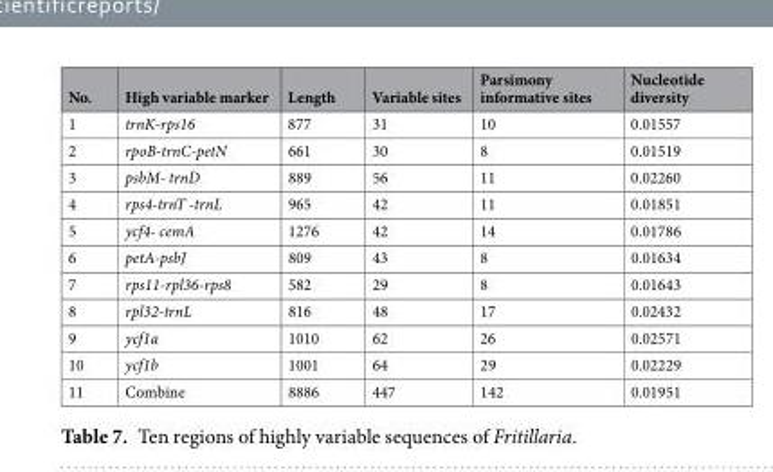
<table><thead><tr><td>No.</td><td>High variable marker</td><td>Length</td><td>Variable sites</td><td>Parsimony informative sites</td><td>Nucleotide diversity</td></tr></thead><tbody><tr><td>1</td><td>trnK-rps16</td><td>877</td><td>31</td><td>10</td><td>0.01557</td></tr><tr><td>2</td><td>rpoB-trnC-petN</td><td>661</td><td>30</td><td>8</td><td>0.01519</td></tr><tr><td>3</td><td>psbM- trnD</td><td>889</td><td>56</td><td>11</td><td>0.02260</td></tr><tr><td>4</td><td>rps4-trnT -trnL</td><td>965</td><td>42</td><td>11</td><td>0.01851</td></tr><tr><td>5</td><td>ycf4- cemA</td><td>1276</td><td>42</td><td>14</td><td>0.01786</td></tr><tr><td>6</td><td>petA-psbJ</td><td>809</td><td>43</td><td>8</td><td>0.01634</td></tr><tr><td>7</td><td>rps11-rpl36-rps8</td><td>582</td><td>29</td><td>8</td><td>0.01643</td></tr><tr><td>8</td><td>rpl32-trnL</td><td>816</td><td>48</td><td>17</td><td>0.02432</td></tr><tr><td>9</td><td>ycf1a</td><td>1010</td><td>62</td><td>26</td><td>0.02571</td></tr><tr><td>10</td><td>ycf1b</td><td>1001</td><td>64</td><td>29</td><td>0.02229</td></tr><tr><td>11</td><td>Combine</td><td>8886</td><td>447</td><td>142</td><td>0.01951</td></tr></tbody></table>